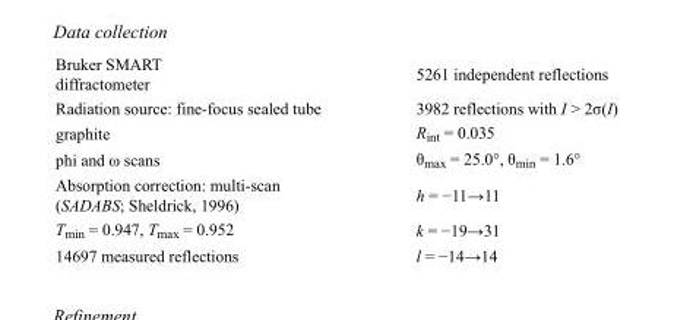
<table><tbody><tr><td>Bruker SMART diffractometer</td><td>5261 independent reflections</td></tr><tr><td>Radiation source: fine-focus sealed tube</td><td>3982 reflections with I &gt; 2σ(I)</td></tr><tr><td>graphite</td><td>R<sub>int</sub> = 0.035</td></tr><tr><td>phi and ω scans</td><td>θ<sub>max</sub> = 25.0°, θ<sub>min</sub> = 1.6°</td></tr><tr><td>Absorption correction: multi-scan (SADABS; Sheldrick, 1996)</td><td>h = −11→11</td></tr><tr><td>T<sub>min</sub> = 0.947, T<sub>max</sub> = 0.952</td><td>k = −19→31</td></tr><tr><td>14697 measured reflections</td><td>l = −14→14</td></tr></tbody></table>